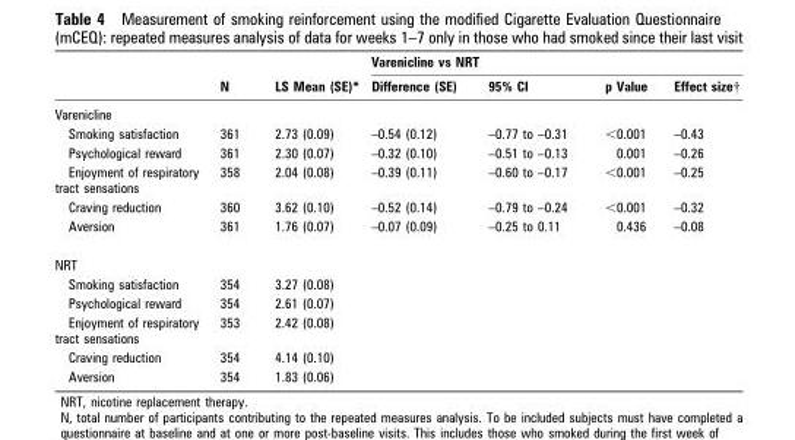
<table><thead><tr><td rowspan="2"></td><td rowspan="2">N</td><td rowspan="2">LS Mean (SE)*</td><td colspan="4">Varenicline vs NRT</td></tr><tr><td>Difference (SE)</td><td>95% CI</td><td>p Value</td><td>Effect size†</td></tr></thead><tbody><tr><td colspan="7">Varenicline</td></tr><tr><td>Smoking satisfaction</td><td>361</td><td>2.73 (0.09)</td><td>–0.54 (0.12)</td><td>–0.77 to –0.31</td><td>&lt;0.001</td><td>–0.43</td></tr><tr><td>Psychological reward</td><td>361</td><td>2.30 (0.07)</td><td>–0.32 (0.10)</td><td>–0.51 to –0.13</td><td>0.001</td><td>–0.26</td></tr><tr><td>Enjoyment of respiratory tract sensations</td><td>358</td><td>2.04 (0.08)</td><td>–0.39 (0.11)</td><td>–0.60 to –0.17</td><td>&lt;0.001</td><td>–0.25</td></tr><tr><td>Craving reduction</td><td>360</td><td>3.62 (0.10)</td><td>–0.52 (0.14)</td><td>–0.79 to –0.24</td><td>&lt;0.001</td><td>–0.32</td></tr><tr><td>Aversion</td><td>361</td><td>1.76 (0.07)</td><td>–0.07 (0.09)</td><td>–0.25 to 0.11</td><td>0.436</td><td>–0.08</td></tr><tr><td colspan="7">NRT</td></tr><tr><td>Smoking satisfaction</td><td>354</td><td>3.27 (0.08)</td><td></td><td></td><td></td><td></td></tr><tr><td>Psychological reward</td><td>354</td><td>2.61 (0.07)</td><td></td><td></td><td></td><td></td></tr><tr><td>Enjoyment of respiratory tract sensations</td><td>353</td><td>2.42 (0.08)</td><td></td><td></td><td></td><td></td></tr><tr><td>Craving reduction</td><td>354</td><td>4.14 (0.10)</td><td></td><td></td><td></td><td></td></tr><tr><td>Aversion</td><td>354</td><td>1.83 (0.06)</td><td></td><td></td><td></td><td></td></tr></tbody></table>